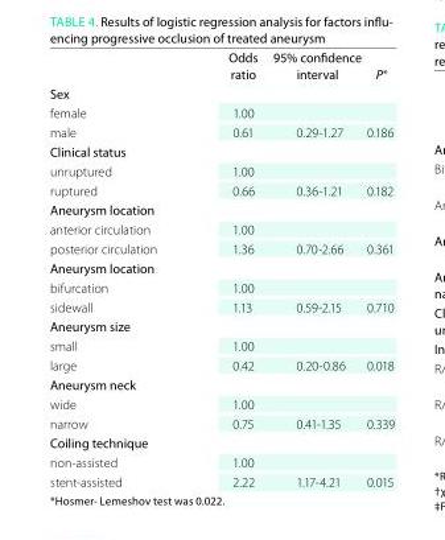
<table><thead><tr><td></td><td>Odds ratio</td><td>95% confidence interval</td><td>P*</td></tr></thead><tbody><tr><td colspan="4">sex</td></tr><tr><td>female</td><td>1.00</td><td></td><td></td></tr><tr><td>male</td><td>0.61</td><td>0.29-1.27</td><td>0.186</td></tr><tr><td colspan="4">Clinical status</td></tr><tr><td>unruptured</td><td>1.00</td><td></td><td></td></tr><tr><td>ruptured</td><td>0.66</td><td>0.36-1.21</td><td>0.182</td></tr><tr><td colspan="4">aneurysm location</td></tr><tr><td>anterior circulation</td><td>1.00</td><td></td><td></td></tr><tr><td>posterior circulation</td><td>1.36</td><td>0.70-2.66</td><td>0.361</td></tr><tr><td colspan="4">aneurysm location</td></tr><tr><td>bifurcation</td><td>1.00</td><td></td><td></td></tr><tr><td>sidewall</td><td>1.13</td><td>0.59-2.15</td><td>0.710</td></tr><tr><td colspan="4">aneurysm size</td></tr><tr><td>small</td><td>1.00</td><td></td><td></td></tr><tr><td>large</td><td>0.42</td><td>0.20-0.86</td><td>0.018</td></tr><tr><td colspan="4">aneurysm neck</td></tr><tr><td>wide</td><td>1.00</td><td></td><td></td></tr><tr><td>narrow</td><td>0.75</td><td>0.41-1.35</td><td>0.339</td></tr><tr><td colspan="4">Coiling technique</td></tr><tr><td>non-assisted</td><td>1.00</td><td></td><td></td></tr><tr><td>stent-assisted</td><td>2.22</td><td>1.17-4.21</td><td>0.015</td></tr></tbody></table>